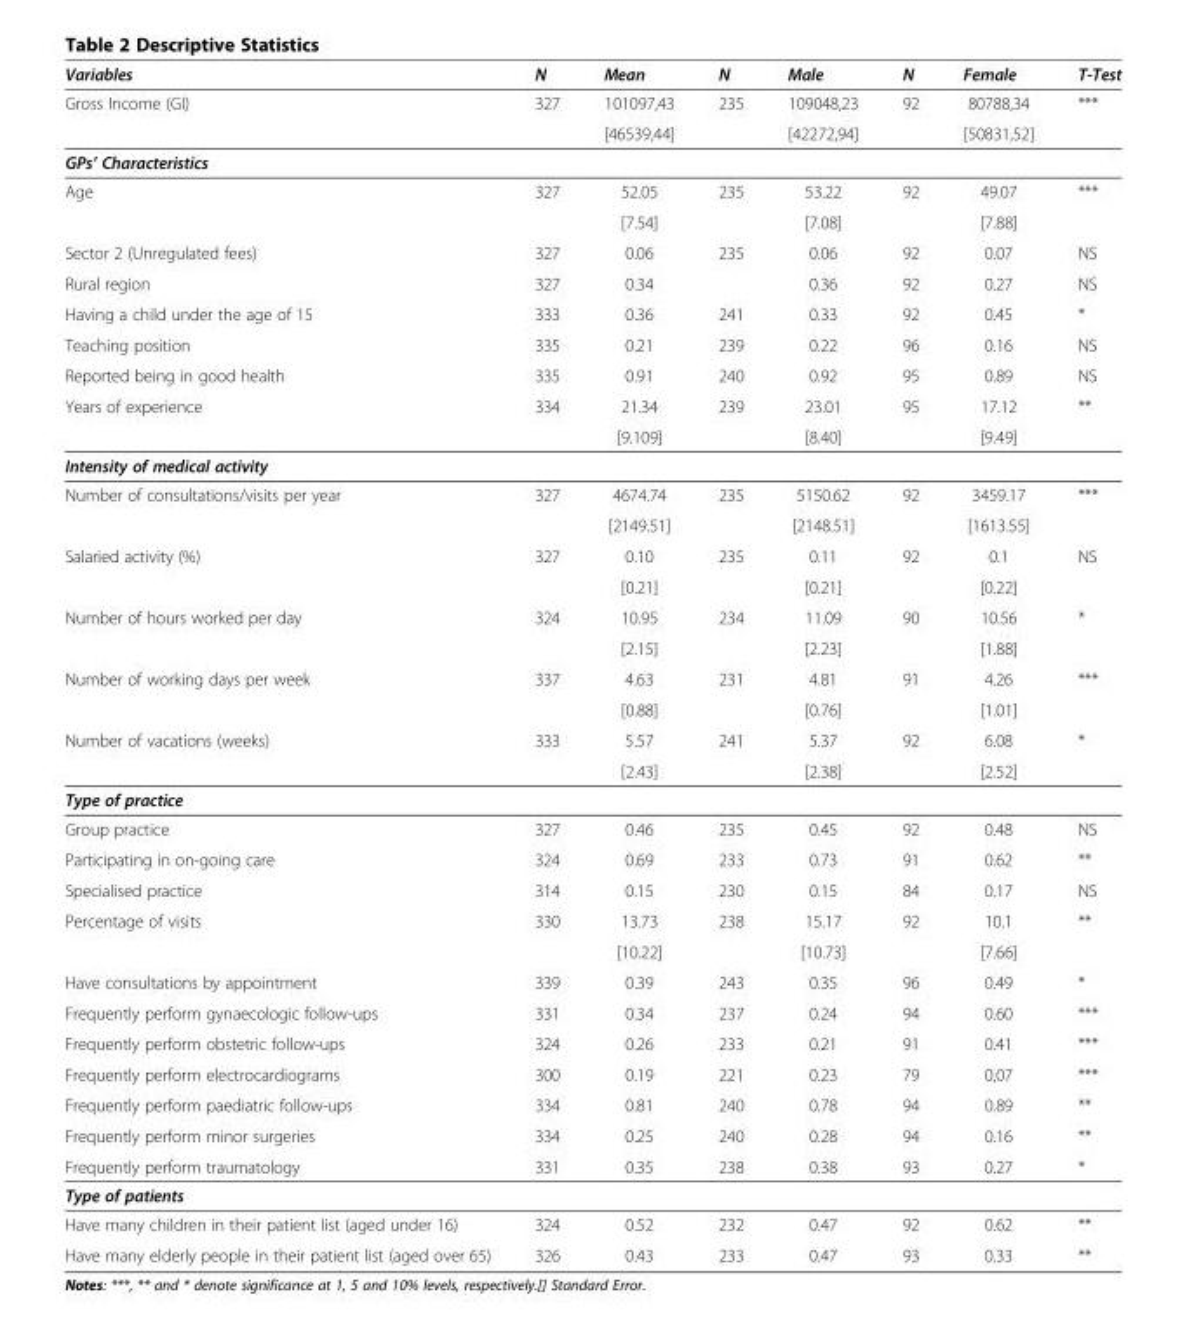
<table><thead><tr><td>Variables</td><td>N</td><td>Mean</td><td>N</td><td>Male</td><td>N</td><td>Female</td><td>T-Test</td></tr></thead><tbody><tr><td rowspan="2">Gross Income (GI)</td><td>327</td><td>101097,43</td><td>235</td><td>109048,23</td><td>92</td><td>80788,34</td><td>***</td></tr><tr><td></td><td>[46539,44]</td><td></td><td>[42272,94]</td><td></td><td>[50831,52]</td><td></td></tr><tr><td colspan="8">GPs’ Characteristics</td></tr><tr><td rowspan="2">Age</td><td>327</td><td>52.05</td><td>235</td><td>53.22</td><td>92</td><td>49.07</td><td>***</td></tr><tr><td></td><td>[7.54]</td><td></td><td>[7.08]</td><td></td><td>[7.88]</td><td></td></tr><tr><td>Sector 2 (Unregulated fees)</td><td>327</td><td>0.06</td><td>235</td><td>0.06</td><td>92</td><td>0.07</td><td>NS</td></tr><tr><td>Rural region</td><td>327</td><td>0.34</td><td></td><td>0.36</td><td>92</td><td>0.27</td><td>NS</td></tr><tr><td>Having a child under the age of 15</td><td>333</td><td>0.36</td><td>241</td><td>0.33</td><td>92</td><td>0.45</td><td>*</td></tr><tr><td>Teaching position</td><td>335</td><td>0.21</td><td>239</td><td>0.22</td><td>96</td><td>0.16</td><td>NS</td></tr><tr><td>Reported being in good health</td><td>335</td><td>0.91</td><td>240</td><td>0.92</td><td>95</td><td>0.89</td><td>NS</td></tr><tr><td rowspan="2">Years of experience</td><td>334</td><td>21.34</td><td>239</td><td>23.01</td><td>95</td><td>17.12</td><td>**</td></tr><tr><td></td><td>[9.109]</td><td></td><td>[8.40]</td><td></td><td>[9.49]</td><td></td></tr><tr><td colspan="8">Intensity of medical activity</td></tr><tr><td rowspan="2">Number of consultations/visits per year</td><td>327</td><td>4674.74</td><td>235</td><td>5150.62</td><td>92</td><td>3459.17</td><td>***</td></tr><tr><td></td><td>[2149.51]</td><td></td><td>[2148.51]</td><td></td><td>[1613.55]</td><td></td></tr><tr><td rowspan="2">Salaried activity (%)</td><td>327</td><td>0.10</td><td>235</td><td>0.11</td><td>92</td><td>0.1</td><td>NS</td></tr><tr><td></td><td>[0.21]</td><td></td><td>[0.21]</td><td></td><td>[0.22]</td><td></td></tr><tr><td rowspan="2">Number of hours worked per day</td><td>324</td><td>10.95</td><td>234</td><td>11.09</td><td>90</td><td>10.56</td><td>*</td></tr><tr><td></td><td>[2.15]</td><td></td><td>[2.23]</td><td></td><td>[1.88]</td><td></td></tr><tr><td rowspan="2">Number of working days per week</td><td>337</td><td>4.63</td><td>231</td><td>4.81</td><td>91</td><td>4.26</td><td>***</td></tr><tr><td></td><td>[0.88]</td><td></td><td>[0.76]</td><td></td><td>[1.01]</td><td></td></tr><tr><td rowspan="2">Number of vacations (weeks)</td><td>333</td><td>5.57</td><td>241</td><td>5.37</td><td>92</td><td>6.08</td><td>*</td></tr><tr><td></td><td>[2.43]</td><td></td><td>[2.38]</td><td></td><td>[2.52]</td><td></td></tr><tr><td colspan="8">Type of practice</td></tr><tr><td>Group practice</td><td>327</td><td>0.46</td><td>235</td><td>0.45</td><td>92</td><td>0.48</td><td>NS</td></tr><tr><td>Participating in on-going care</td><td>324</td><td>0.69</td><td>233</td><td>0.73</td><td>91</td><td>0.62</td><td>**</td></tr><tr><td>Specialised practice</td><td>314</td><td>0.15</td><td>230</td><td>0.15</td><td>84</td><td>0.17</td><td>NS</td></tr><tr><td rowspan="2">Percentage of visits</td><td>330</td><td>13.73</td><td>238</td><td>15.17</td><td>92</td><td>10.1</td><td>**</td></tr><tr><td></td><td>[10.22]</td><td></td><td>[10.73]</td><td></td><td>[7.66]</td><td></td></tr><tr><td>Have consultations by appointment</td><td>339</td><td>0.39</td><td>243</td><td>0.35</td><td>96</td><td>0.49</td><td>*</td></tr><tr><td>Frequently perform gynaecologic follow-ups</td><td>331</td><td>0.34</td><td>237</td><td>0.24</td><td>94</td><td>0.60</td><td>***</td></tr><tr><td>Frequently perform obstetric follow-ups</td><td>324</td><td>0.26</td><td>233</td><td>0.21</td><td>91</td><td>0.41</td><td>***</td></tr><tr><td>Frequently perform electrocardiograms</td><td>300</td><td>0.19</td><td>221</td><td>0.23</td><td>79</td><td>0,07</td><td>***</td></tr><tr><td>Frequently perform paediatric follow-ups</td><td>334</td><td>0.81</td><td>240</td><td>0.78</td><td>94</td><td>0.89</td><td>**</td></tr><tr><td>Frequently perform minor surgeries</td><td>334</td><td>0.25</td><td>240</td><td>0.28</td><td>94</td><td>0.16</td><td>**</td></tr><tr><td>Frequently perform traumatology</td><td>331</td><td>0.35</td><td>238</td><td>0.38</td><td>93</td><td>0.27</td><td>*</td></tr><tr><td colspan="8">Type of patients</td></tr><tr><td>Have many children in their patient list (aged under 16)</td><td>324</td><td>0.52</td><td>232</td><td>0.47</td><td>92</td><td>0.62</td><td>**</td></tr><tr><td>Have many elderly people in their patient list (aged over 65)</td><td>326</td><td>0.43</td><td>233</td><td>0.47</td><td>93</td><td>0.33</td><td>**</td></tr></tbody></table>